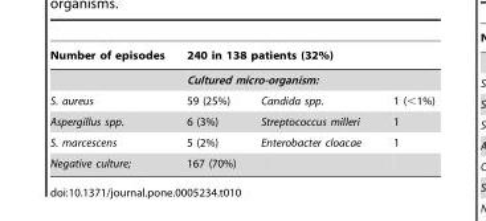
<table><thead><tr><td rowspan="3">Number of episodes S. aureus</td><td rowspan="2" colspan="3">240 in 138 patients (32%) Cultured micro-organism:</td></tr><tr></tr><tr><td>59 (25%)</td><td>Candida spp.</td><td>1 (&lt;1%)</td></tr></thead><tbody><tr><td>Aspergillus spp.</td><td>6 (3%)</td><td>Streptococcus milleri</td><td>1</td></tr><tr><td>S. marcescens</td><td>5 (2%)</td><td>Enterobacter cloacae</td><td>1</td></tr><tr><td>Negative culture;</td><td>167 (70%)</td><td></td><td></td></tr></tbody></table>